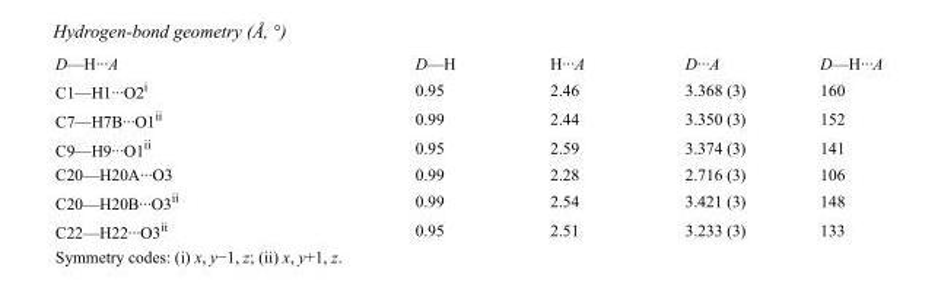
<table><tbody><tr><td>D—H···A</td><td>D—H</td><td>H···A</td><td>D···A</td><td>D—H···A</td></tr><tr><td>C1—H1···O2<sup>i</sup></td><td>0.95</td><td>2.46</td><td>3.368 (3)</td><td>160</td></tr><tr><td>C7—H7B···O1<sup>ii</sup></td><td>0.99</td><td>2.44</td><td>3.350 (3)</td><td>152</td></tr><tr><td>C9—H9···O1<sup>ii</sup></td><td>0.95</td><td>2.59</td><td>3.374 (3)</td><td>141</td></tr><tr><td>C20—H20A···O3</td><td>0.99</td><td>2.28</td><td>2.716 (3)</td><td>106</td></tr><tr><td>C20—H20B···O3<sup>ii</sup></td><td>0.99</td><td>2.54</td><td>3.421 (3)</td><td>148</td></tr><tr><td>C22—H22···O3<sup>ii</sup></td><td>0.95</td><td>2.51</td><td>3.233 (3)</td><td>133</td></tr></tbody></table>